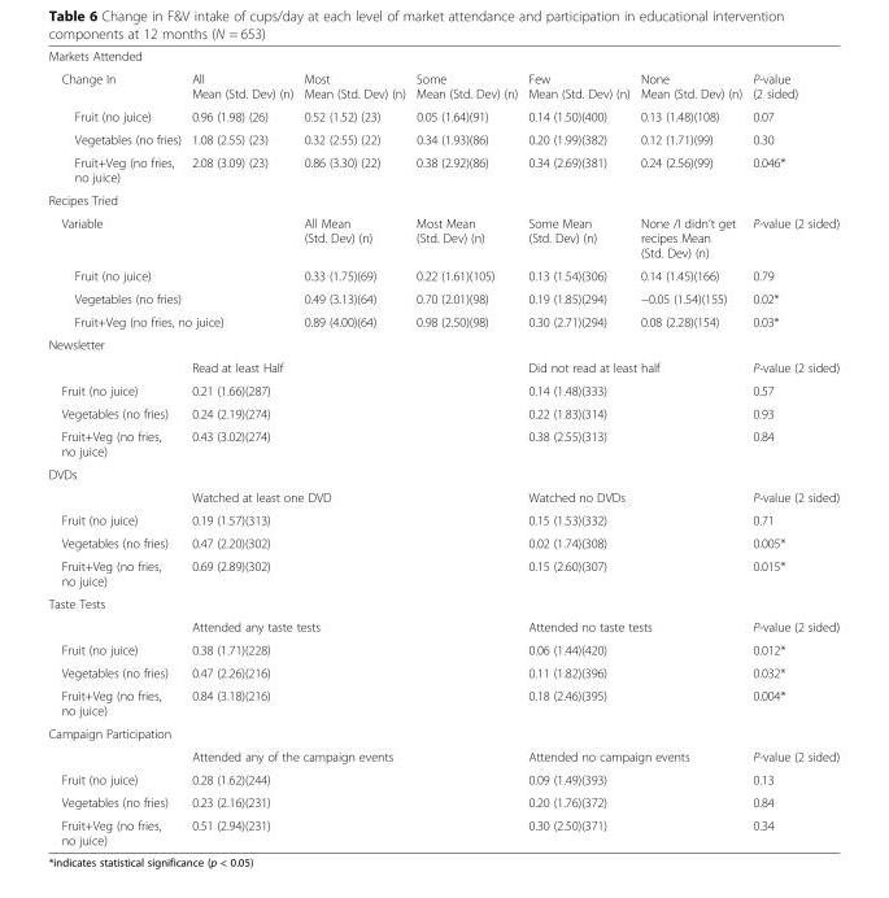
<table><tbody><tr><td colspan="7">Markets Attended</td></tr><tr><td>Change In</td><td>All Mean (Std. Dev) (n)</td><td>Most Mean (Std. Dev) (n)</td><td>Some Mean (Std. Dev) (n)</td><td>Few Mean (Std. Dev) (n)</td><td>None Mean (Std. Dev) (n)</td><td>P-value (2 sided)</td></tr><tr><td>Fruit (no juice)</td><td>0.96 (1.98) (26)</td><td>0.52 (1.52) (23)</td><td>0.05 (1.64)(91)</td><td>0.14 (1.50)(400)</td><td>0.13 (1.48)(108)</td><td>0.07</td></tr><tr><td>Vegetables (no fries)</td><td>1.08 (2.55) (23)</td><td>0.32 (2.55) (22)</td><td>0.34 (1.93)(86)</td><td>0.20 (1.99)(382)</td><td>0.12 (1.71)(99)</td><td>0.30</td></tr><tr><td>Fruit+Veg (no fries, no juice)</td><td>2.08 (3.09) (23)</td><td>0.86 (3.30) (22)</td><td>0.38 (2.92)(86)</td><td>0.34 (2.69)(381)</td><td>0.24 (2.56)(99)</td><td>0.046*</td></tr><tr><td colspan="7">Recipes Tried</td></tr><tr><td colspan="2">Variable</td><td>All Mean (Std. Dev) (n)</td><td>Most Mean (Std. Dev) (n)</td><td>Some Mean (Std. Dev) (n)</td><td>None /I didn’t get recipes Mean (Std. Dev) (n)</td><td>P-value (2 sided)</td></tr><tr><td colspan="2">Fruit (no juice)</td><td>0.33 (1.75)(69)</td><td>0.22 (1.61)(105)</td><td>0.13 (1.54)(306)</td><td>0.14 (1.45)(166)</td><td>0.79</td></tr><tr><td colspan="2">Vegetables (no fries)</td><td>0.49 (3.13)(64)</td><td>0.70 (2.01)(98)</td><td>0.19 (1.85)(294)</td><td>−0.05 (1.54)(155)</td><td>0.02*</td></tr><tr><td colspan="2">Fruit+Veg (no fries, no juice)</td><td>0.89 (4.00)(64)</td><td>0.98 (2.50)(98)</td><td>0.30 (2.71)(294)</td><td>0.08 (2.28)(154)</td><td>0.03*</td></tr><tr><td colspan="7">Newsletter</td></tr><tr><td></td><td colspan="3">Read at least Half</td><td colspan="2">Did not read at least half</td><td>P-value (2 sided)</td></tr><tr><td>Fruit (no juice)</td><td colspan="3">0.21 (1.66)(287)</td><td colspan="2">0.14 (1.48)(333)</td><td>0.57</td></tr><tr><td>Vegetables (no fries)</td><td colspan="3">0.24 (2.19)(274)</td><td colspan="2">0.22 (1.83)(314)</td><td>0.93</td></tr><tr><td>Fruit+Veg (no fries, no juice)</td><td colspan="3">0.43 (3.02)(274)</td><td colspan="2">0.38 (2.55)(313)</td><td>0.84</td></tr><tr><td colspan="7">DVDs</td></tr><tr><td></td><td colspan="3">Watched at least one DVD</td><td colspan="2">Watched no DVDs</td><td>P-value (2 sided)</td></tr><tr><td>Fruit (no juice)</td><td colspan="3">0.19 (1.57)(313)</td><td colspan="2">0.15 (1.53)(332)</td><td>0.71</td></tr><tr><td>Vegetables (no fries)</td><td colspan="3">0.47 (2.20)(302)</td><td colspan="2">0.02 (1.74)(308)</td><td>0.005*</td></tr><tr><td>Fruit+Veg (no fries, no juice)</td><td colspan="3">0.69 (2.89)(302)</td><td colspan="2">0.15 (2.60)(307)</td><td>0.015*</td></tr><tr><td colspan="7">Taste Tests</td></tr><tr><td></td><td colspan="3">Attended any taste tests</td><td colspan="2">Attended no taste tests</td><td>P-value (2 sided)</td></tr><tr><td>Fruit (no juice)</td><td colspan="3">0.38 (1.71)(228)</td><td colspan="2">0.06 (1.44)(420)</td><td>0.012*</td></tr><tr><td>Vegetables (no fries)</td><td colspan="3">0.47 (2.26)(216)</td><td colspan="2">0.11 (1.82)(396)</td><td>0.032*</td></tr><tr><td>Fruit+Veg (no fries, no juice)</td><td colspan="3">0.84 (3.18)(216)</td><td colspan="2">0.18 (2.46)(395)</td><td>0.004*</td></tr><tr><td colspan="7">Campaign Participation</td></tr><tr><td></td><td colspan="3">Attended any of the campaign events</td><td colspan="2">Attended no campaign events</td><td>P-value (2 sided)</td></tr><tr><td>Fruit (no juice)</td><td colspan="3">0.28 (1.62)(244)</td><td colspan="2">0.09 (1.49)(393)</td><td>0.13</td></tr><tr><td>Vegetables (no fries)</td><td colspan="3">0.23 (2.16)(231)</td><td colspan="2">0.20 (1.76)(372)</td><td>0.84</td></tr><tr><td>Fruit+Veg (no fries, no juice)</td><td colspan="3">0.51 (2.94)(231)</td><td colspan="2">0.30 (2.50)(371)</td><td>0.34</td></tr></tbody></table>